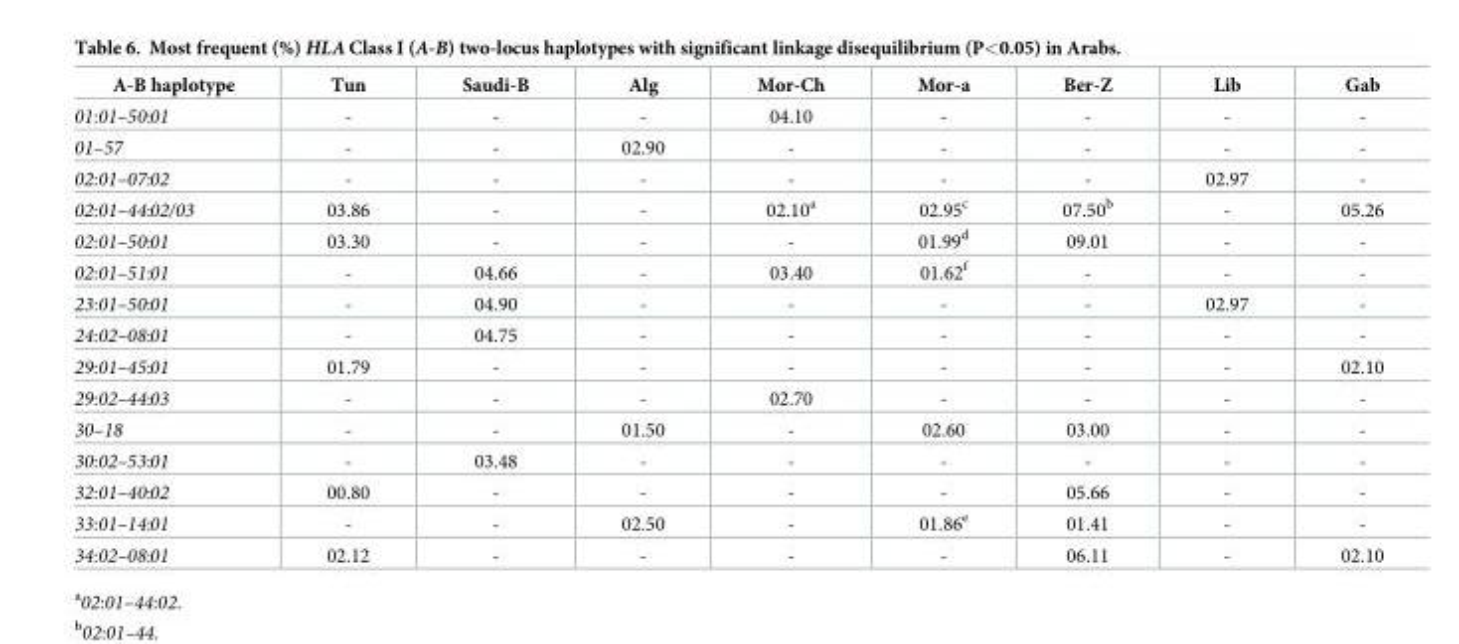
<table><thead><tr><td>A-B haplotype</td><td>Tun</td><td>Saudi-B</td><td>Alg</td><td>Mor-Ch</td><td>Mor-a</td><td>Ber-Z</td><td>Lib</td><td>Gab</td></tr></thead><tbody><tr><td>01:01–50:01</td><td>-</td><td>-</td><td>-</td><td>04.10</td><td>-</td><td>-</td><td>-</td><td>-</td></tr><tr><td>01–57</td><td>-</td><td>-</td><td>02.90</td><td>-</td><td>-</td><td>-</td><td>-</td><td>-</td></tr><tr><td>02:01–07:02</td><td>-</td><td>-</td><td>-</td><td>-</td><td>-</td><td>-</td><td>02.97</td><td>-</td></tr><tr><td>02:01–44:02/03</td><td>03.86</td><td>-</td><td>-</td><td>02.10<sup>a</sup></td><td>02.95<sup>c</sup></td><td>07.50<sup>b</sup></td><td>-</td><td>05.26</td></tr><tr><td>02:01–50:01</td><td>03.30</td><td>-</td><td>-</td><td>-</td><td>01.99<sup>d</sup></td><td>09.01</td><td>-</td><td>-</td></tr><tr><td>02:01–51:01</td><td>-</td><td>04.66</td><td>-</td><td>03.40</td><td>01.62<sup>f</sup></td><td>-</td><td>-</td><td>-</td></tr><tr><td>23:01–50:01</td><td>-</td><td>04.90</td><td>-</td><td>-</td><td>-</td><td>-</td><td>02.97</td><td>-</td></tr><tr><td>24:02–08:01</td><td>-</td><td>04.75</td><td>-</td><td>-</td><td>-</td><td>-</td><td>-</td><td>-</td></tr><tr><td>29:01–45:01</td><td>01.79</td><td>-</td><td>-</td><td>-</td><td>-</td><td>-</td><td>-</td><td>02.10</td></tr><tr><td>29:02–44:03</td><td>-</td><td>-</td><td>-</td><td>02.70</td><td>-</td><td>-</td><td>-</td><td>-</td></tr><tr><td>30–18</td><td>-</td><td>-</td><td>01.50</td><td>-</td><td>02.60</td><td>03.00</td><td>-</td><td>-</td></tr><tr><td>30:02–53:01</td><td>-</td><td>03.48</td><td>-</td><td>-</td><td>-</td><td>-</td><td>-</td><td>-</td></tr><tr><td>32:01–40:02</td><td>00.80</td><td>-</td><td>-</td><td>-</td><td>-</td><td>05.66</td><td>-</td><td>-</td></tr><tr><td>33:01–14:01</td><td>-</td><td>-</td><td>02.50</td><td>-</td><td>01.86<sup>e</sup></td><td>01.41</td><td>-</td><td>-</td></tr><tr><td>34:02–08:01</td><td>02.12</td><td>-</td><td>-</td><td>-</td><td>-</td><td>06.11</td><td>-</td><td>02.10</td></tr></tbody></table>